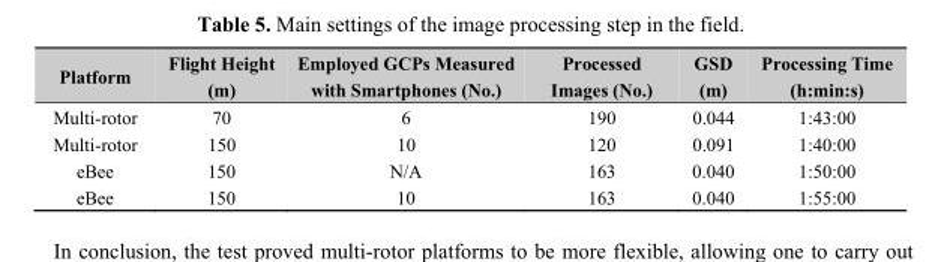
<table><thead><tr><td>Platform</td><td>Flight Height (m)</td><td>Employed GCPs Measured with Smartphones (No.)</td><td>Processed Images (No.)</td><td>GSD (m)</td><td>Processing Time (h:min:s)</td></tr></thead><tbody><tr><td>Multi-rotor</td><td>70</td><td>6</td><td>190</td><td>0.044</td><td>1:43:00</td></tr><tr><td>Multi-rotor</td><td>150</td><td>10</td><td>120</td><td>0.091</td><td>1:40:00</td></tr><tr><td>eBee</td><td>150</td><td>N/A</td><td>163</td><td>0.040</td><td>1:50:00</td></tr><tr><td>eBee</td><td>150</td><td>10</td><td>163</td><td>0.040</td><td>1:55:00</td></tr></tbody></table>